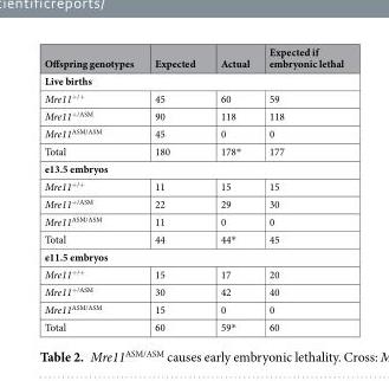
<table><thead><tr><td>Offspring genotypes</td><td>Expected</td><td>Actual</td><td>Expected if embryonic lethal</td></tr></thead><tbody><tr><td colspan="4">Live births</td></tr><tr><td>Mre11<sup>+/+</sup></td><td>45</td><td>60</td><td>59</td></tr><tr><td>Mre11<sup>+/ASM</sup></td><td>90</td><td>118</td><td>118</td></tr><tr><td>Mre11<sup>ASM/ASM</sup></td><td>45</td><td>0</td><td>0</td></tr><tr><td>Total</td><td>180</td><td>178*</td><td>177</td></tr><tr><td colspan="4">e13.5 embryos</td></tr><tr><td>Mre11<sup>+/+</sup></td><td>11</td><td>15</td><td>15</td></tr><tr><td>Mre11<sup>+/ASM</sup></td><td>22</td><td>29</td><td>30</td></tr><tr><td>Mre11<sup>ASM/ASM</sup></td><td>11</td><td>0</td><td>0</td></tr><tr><td>Total</td><td>44</td><td>44*</td><td>45</td></tr><tr><td colspan="4">e11.5 embryos</td></tr><tr><td>Mre11<sup>+/+</sup></td><td>15</td><td>17</td><td>20</td></tr><tr><td>Mre11<sup>+/ASM</sup></td><td>30</td><td>42</td><td>40</td></tr><tr><td>Mre11<sup>ASM/ASM</sup></td><td>15</td><td>0</td><td>0</td></tr><tr><td>Total</td><td>60</td><td>59*</td><td>60</td></tr></tbody></table>